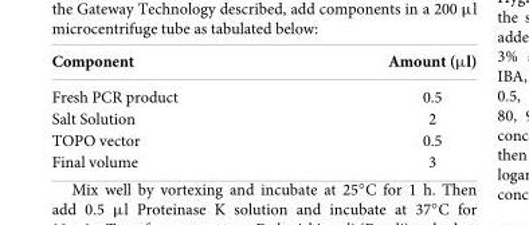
<table><tbody><tr><td>Component</td><td>Amount (µl)</td></tr><tr><td>Fresh PCR product</td><td>0.5</td></tr><tr><td>Salt Solution</td><td>2</td></tr><tr><td>TOPO vector</td><td>0.5</td></tr><tr><td>Final volume</td><td>3</td></tr></tbody></table>